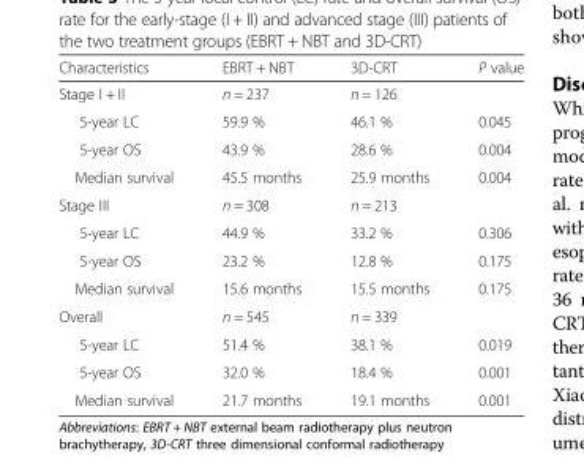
<table><thead><tr><td>Characteristics</td><td>EBRT + NBT</td><td>3D-CRT</td><td>P value</td></tr></thead><tbody><tr><td>Stage I + II</td><td>n = 237</td><td>n = 126</td><td></td></tr><tr><td>5-year LC</td><td>59.9 %</td><td>46.1 %</td><td>0.045</td></tr><tr><td>5-year OS</td><td>43.9 %</td><td>28.6 %</td><td>0.004</td></tr><tr><td>Median survival</td><td>45.5 months</td><td>25.9 months</td><td>0.004</td></tr><tr><td>Stage III</td><td>n = 308</td><td>n = 213</td><td></td></tr><tr><td>5-year LC</td><td>44.9 %</td><td>33.2 %</td><td>0.306</td></tr><tr><td>5-year OS</td><td>23.2 %</td><td>12.8 %</td><td>0.175</td></tr><tr><td>Median survival</td><td>15.6 months</td><td>15.5 months</td><td>0.175</td></tr><tr><td>Overall</td><td>n = 545</td><td>n = 339</td><td></td></tr><tr><td>5-year LC</td><td>51.4 %</td><td>38.1 %</td><td>0.019</td></tr><tr><td>5-year OS</td><td>32.0 %</td><td>18.4 %</td><td>0.001</td></tr><tr><td>Median survival</td><td>21.7 months</td><td>19.1 months</td><td>0.001</td></tr></tbody></table>